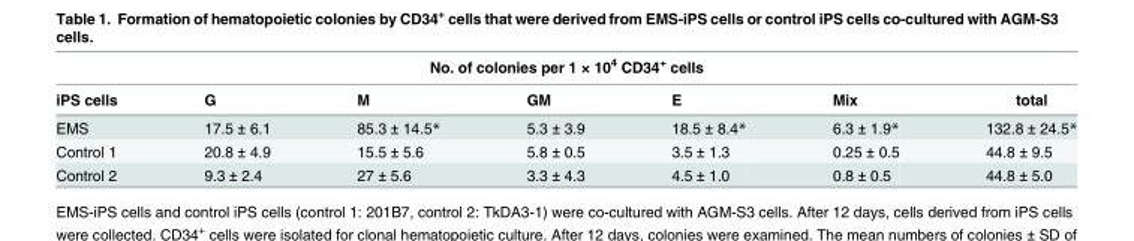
<table><thead><tr><td colspan="7">No. of colonies per 1 × 10<sup>4</sup> CD34<sup>+</sup> cells</td></tr><tr><td>iPS cells</td><td>G</td><td>M</td><td>GM</td><td>E</td><td>Mix</td><td>total</td></tr></thead><tbody><tr><td>EMS</td><td>17.5 ± 6.1</td><td>85.3 ± 14.5*</td><td>5.3 ± 3.9</td><td>18.5 ± 8.4*</td><td>6.3 ± 1.9*</td><td>132.8 ± 24.5*</td></tr><tr><td>Control 1</td><td>20.8 ± 4.9</td><td>15.5 ± 5.6</td><td>5.8 ± 0.5</td><td>3.5 ± 1.3</td><td>0.25 ± 0.5</td><td>44.8 ± 9.5</td></tr><tr><td>Control 2</td><td>9.3 ± 2.4</td><td>27 ± 5.6</td><td>3.3 ± 4.3</td><td>4.5 ± 1.0</td><td>0.8 ± 0.5</td><td>44.8 ± 5.0</td></tr></tbody></table>